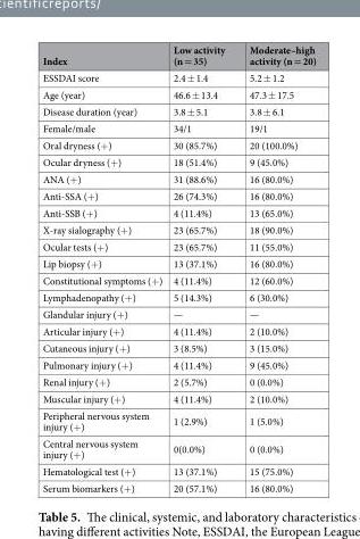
<table><thead><tr><td>Index</td><td>Low activity (n = 35)</td><td>Moderate–high activity (n = 20)</td></tr></thead><tbody><tr><td>ESSDAI score</td><td>2.4 ± 1.4</td><td>5.2 ± 1.2</td></tr><tr><td>Age (year)</td><td>46.6 ± 13.4</td><td>47.3 ± 17.5</td></tr><tr><td>Disease duration (year)</td><td>3.8 ± 5.1</td><td>3.8 ± 6.1</td></tr><tr><td>Female/male</td><td>34/1</td><td>19/1</td></tr><tr><td>Oral dryness (+)</td><td>30 (85.7%)</td><td>20 (100.0%)</td></tr><tr><td>Ocular dryness (+)</td><td>18 (51.4%)</td><td>9 (45.0%)</td></tr><tr><td>ANA (+)</td><td>31 (88.6%)</td><td>16 (80.0%)</td></tr><tr><td>Anti-SSA (+)</td><td>26 (74.3%)</td><td>16 (80.0%)</td></tr><tr><td>Anti-SSB (+)</td><td>4 (11.4%)</td><td>13 (65.0%)</td></tr><tr><td>X-ray sialography (+)</td><td>23 (65.7%)</td><td>18 (90.0%)</td></tr><tr><td>Ocular tests (+)</td><td>23 (65.7%)</td><td>11 (55.0%)</td></tr><tr><td>Lip biopsy (+)</td><td>13 (37.1%)</td><td>16 (80.0%)</td></tr><tr><td>Constitutional symptoms (+)</td><td>4 (11.4%)</td><td>12 (60.0%)</td></tr><tr><td>Lymphadenopathy (+)</td><td>5 (14.3%)</td><td>6 (30.0%)</td></tr><tr><td>Glandular injury (+)</td><td>—</td><td>—</td></tr><tr><td>Articular injury (+)</td><td>4 (11.4%)</td><td>2 (10.0%)</td></tr><tr><td>Cutaneous injury (+)</td><td>3 (8.5%)</td><td>3 (15.0%)</td></tr><tr><td>Pulmonary injury (+)</td><td>4 (11.4%)</td><td>9 (45.0%)</td></tr><tr><td>Renal injury (+)</td><td>2 (5.7%)</td><td>0 (0.0%)</td></tr><tr><td>Muscular injury (+)</td><td>4 (11.4%)</td><td>2 (10.0%)</td></tr><tr><td>Peripheral nervous system injury (+)</td><td>1 (2.9%)</td><td>1 (5.0%)</td></tr><tr><td>Central nervous system injury (+)</td><td>0(0.0%)</td><td>0 (0.0%)</td></tr><tr><td>Hematological test (+)</td><td>13 (37.1%)</td><td>15 (75.0%)</td></tr><tr><td>Serum biomarkers (+)</td><td>20 (57.1%)</td><td>16 (80.0%)</td></tr></tbody></table>